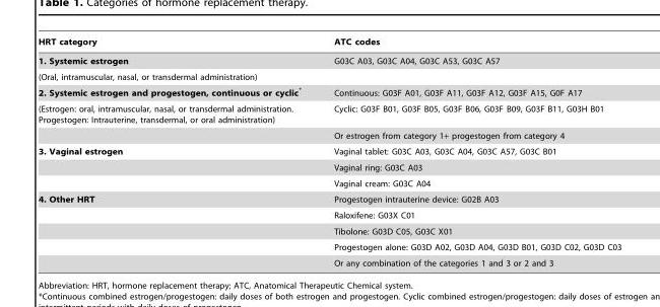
<table><thead><tr><td>HRT category</td><td>ATC codes</td></tr></thead><tbody><tr><td>1. Systemic estrogen</td><td>G03C A03, G03C A04, G03C A53, G03C A57</td></tr><tr><td colspan="2">(Oral, intramuscular, nasal, or transdermal administration)</td></tr><tr><td>2. Systemic estrogen and progestogen, continuous or cyclic*</td><td>Continuous: G03F A01, G03F A11, G03F A12, G03F A15, G0F A17</td></tr><tr><td rowspan="2">(Estrogen: oral, intramuscular, nasal, or transdermal administration. Progestogen: Intrauterine, transdermal, or oral administration)</td><td>Cyclic: G03F B01, G03F B05, G03F B06, G03F B09, G03F B11, G03H B01</td></tr><tr><td>Or estrogen from category 1+ progestogen from category 4</td></tr><tr><td rowspan="3">3. Vaginal estrogen</td><td>Vaginal tablet: G03C A03, G03C A04, G03C A57, G03C B01</td></tr><tr><td>Vaginal ring: G03C A03</td></tr><tr><td>Vaginal cream: G03C A04</td></tr><tr><td rowspan="5">4. Other HRT</td><td>Progestogen intrauterine device: G02B A03</td></tr><tr><td>Raloxifene: G03X C01</td></tr><tr><td>Tibolone: G03D C05, G03C X01</td></tr><tr><td>Progestogen alone: G03D A02, G03D A04, G03D B01, G03D C02, G03D C03</td></tr><tr><td>Or any combination of the categories 1 and 3 or 2 and 3</td></tr></tbody></table>